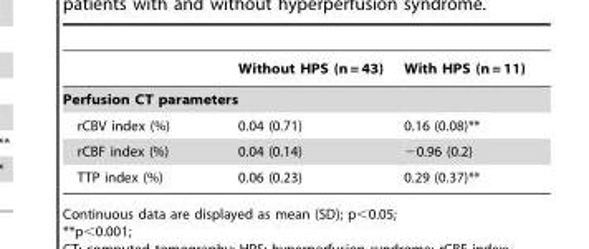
<table><thead><tr><td></td><td>Without HPS (n = 43)</td><td>With HPS (n = 11)</td></tr></thead><tbody><tr><td colspan="3">Perfusion CT parameters</td></tr><tr><td>rCBV index (%)</td><td>0.04 (0.71)</td><td>0.16 (0.08)**</td></tr><tr><td>rCBF index (%)</td><td>0.04 (0.14)</td><td>−0.96 (0.2)</td></tr><tr><td>TTP index (%)</td><td>0.06 (0.23)</td><td>0.29 (0.37)**</td></tr></tbody></table>